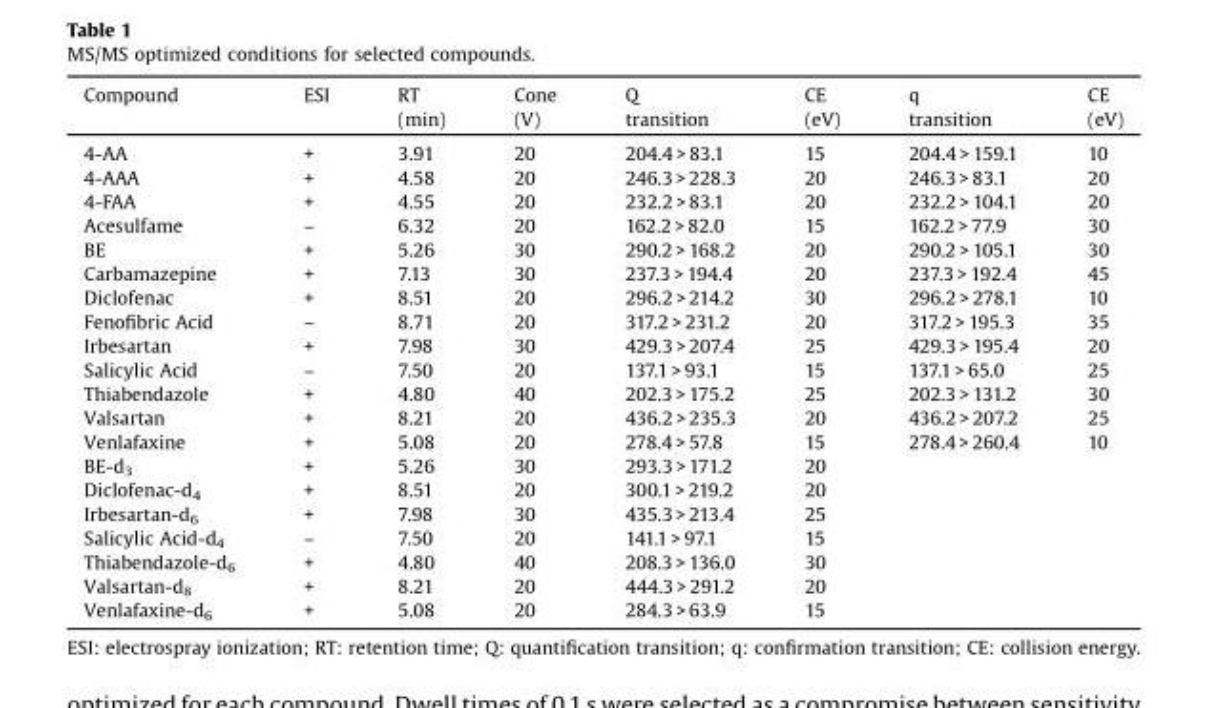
<table><thead><tr><td>Compound</td><td>ESI</td><td>RT (min)</td><td>Cone (V)</td><td>Q transition</td><td>CE (eV)</td><td>q transition</td><td>CE (eV)</td></tr></thead><tbody><tr><td>4-AA</td><td>+</td><td>3.91</td><td>20</td><td>204.4 &gt; 83.1</td><td>15</td><td>204.4 &gt; 159.1</td><td>10</td></tr><tr><td>4-AAA</td><td>+</td><td>4.58</td><td>20</td><td>246.3 &gt; 228.3</td><td>20</td><td>246.3 &gt; 83.1</td><td>20</td></tr><tr><td>4-FAA</td><td>+</td><td>4.55</td><td>20</td><td>232.2 &gt; 83.1</td><td>20</td><td>232.2 &gt; 104.1</td><td>20</td></tr><tr><td>Acesulfame</td><td>–</td><td>6.32</td><td>20</td><td>162.2 &gt; 82.0</td><td>15</td><td>162.2 &gt; 77.9</td><td>30</td></tr><tr><td>BE</td><td>+</td><td>5.26</td><td>30</td><td>290.2 &gt; 168.2</td><td>20</td><td>290.2 &gt; 105.1</td><td>30</td></tr><tr><td>Carbamazepine</td><td>+</td><td>7.13</td><td>30</td><td>237.3 &gt; 194.4</td><td>20</td><td>237.3 &gt; 192.4</td><td>45</td></tr><tr><td>Diclofenac</td><td>+</td><td>8.51</td><td>20</td><td>296.2 &gt; 214.2</td><td>30</td><td>296.2 &gt; 278.1</td><td>10</td></tr><tr><td>Fenofibric Acid</td><td>–</td><td>8.71</td><td>20</td><td>317.2 &gt; 231.2</td><td>20</td><td>317.2 &gt; 195.3</td><td>35</td></tr><tr><td>Irbesartan</td><td>+</td><td>7.98</td><td>30</td><td>429.3 &gt; 207.4</td><td>25</td><td>429.3 &gt; 195.4</td><td>20</td></tr><tr><td>Salicylic Acid</td><td>–</td><td>7.50</td><td>20</td><td>137.1 &gt; 93.1</td><td>15</td><td>137.1 &gt; 65.0</td><td>25</td></tr><tr><td>Thiabendazole</td><td>+</td><td>4.80</td><td>40</td><td>202.3 &gt; 175.2</td><td>25</td><td>202.3 &gt; 131.2</td><td>30</td></tr><tr><td>Valsartan</td><td>+</td><td>8.21</td><td>20</td><td>436.2 &gt; 235.3</td><td>20</td><td>436.2 &gt; 207.2</td><td>25</td></tr><tr><td>Venlafaxine</td><td>+</td><td>5.08</td><td>20</td><td>278.4 &gt; 57.8</td><td>15</td><td>278.4 &gt; 260.4</td><td>10</td></tr><tr><td>BE-d<sub>3</sub></td><td>+</td><td>5.26</td><td>30</td><td>293.3 &gt; 171.2</td><td>20</td><td></td><td></td></tr><tr><td>Diclofenac-d<sub>4</sub></td><td>+</td><td>8.51</td><td>20</td><td>300.1 &gt; 219.2</td><td>20</td><td></td><td></td></tr><tr><td>Irbesartan-d<sub>6</sub></td><td>+</td><td>7.98</td><td>30</td><td>435.3 &gt; 213.4</td><td>25</td><td></td><td></td></tr><tr><td>Salicylic Acid-d<sub>4</sub></td><td>–</td><td>7.50</td><td>20</td><td>141.1 &gt; 97.1</td><td>15</td><td></td><td></td></tr><tr><td>Thiabendazole-d<sub>6</sub></td><td>+</td><td>4.80</td><td>40</td><td>208.3 &gt; 136.0</td><td>30</td><td></td><td></td></tr><tr><td>Valsartan-d<sub>8</sub></td><td>+</td><td>8.21</td><td>20</td><td>444.3 &gt; 291.2</td><td>20</td><td></td><td></td></tr><tr><td>Venlafaxine-d<sub>6</sub></td><td>+</td><td>5.08</td><td>20</td><td>284.3 &gt; 63.9</td><td>15</td><td></td><td></td></tr></tbody></table>